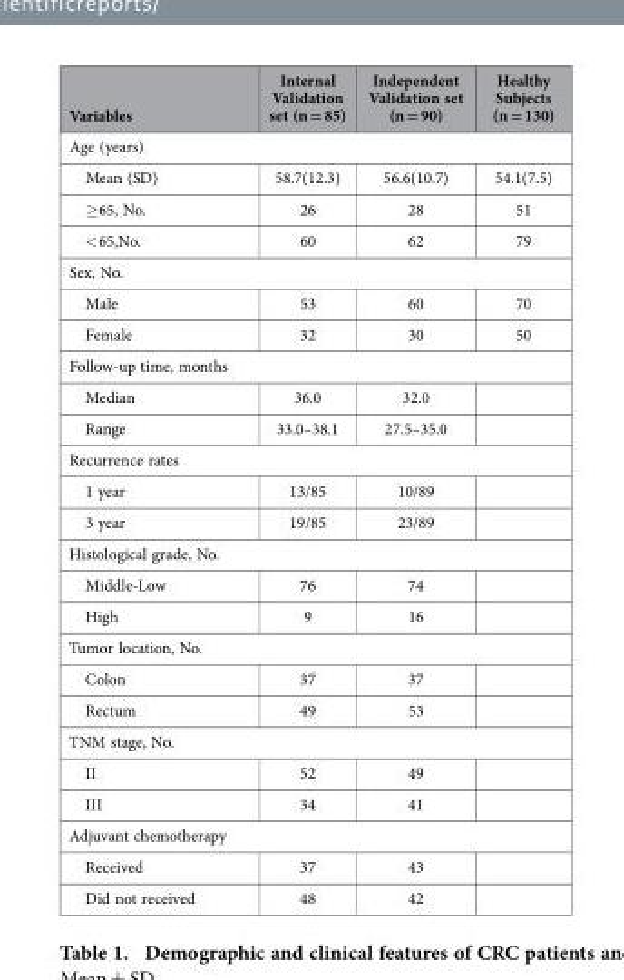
<table><thead><tr><td>Variables</td><td>Internal Validation set (n = 85)</td><td>Independent Validation set (n = 90)</td><td>Healthy Subjects (n = 130)</td></tr></thead><tbody><tr><td colspan="4">Age (years)</td></tr><tr><td>Mean (SD)</td><td>58.7(12.3)</td><td>56.6(10.7)</td><td>54.1(7.5)</td></tr><tr><td>≥ 65, No.</td><td>26</td><td>28</td><td>51</td></tr><tr><td>&lt; 65,No.</td><td>60</td><td>62</td><td>79</td></tr><tr><td colspan="4">Sex, No.</td></tr><tr><td>Male</td><td>53</td><td>60</td><td>70</td></tr><tr><td>Female</td><td>32</td><td>30</td><td>50</td></tr><tr><td colspan="4">Follow-up time, months</td></tr><tr><td>Median</td><td>36.0</td><td>32.0</td><td></td></tr><tr><td>Range</td><td>33.0–38.1</td><td>27.5–35.0</td><td></td></tr><tr><td colspan="4">Recurrence rates</td></tr><tr><td>1 year</td><td>13/85</td><td>10/89</td><td></td></tr><tr><td>3 year</td><td>19/85</td><td>23/89</td><td></td></tr><tr><td colspan="4">Histological grade, No.</td></tr><tr><td>Middle-Low</td><td>76</td><td>74</td><td></td></tr><tr><td>High</td><td>9</td><td>16</td><td></td></tr><tr><td colspan="4">Tumor location, No.</td></tr><tr><td>Colon</td><td>37</td><td>37</td><td></td></tr><tr><td>Rectum</td><td>49</td><td>53</td><td></td></tr><tr><td colspan="4">TNM stage, No.</td></tr><tr><td>II</td><td>52</td><td>49</td><td></td></tr><tr><td>III</td><td>34</td><td>41</td><td></td></tr><tr><td colspan="4">Adjuvant chemotherapy</td></tr><tr><td>Received</td><td>37</td><td>43</td><td></td></tr><tr><td>Did not received</td><td>48</td><td>42</td><td></td></tr></tbody></table>